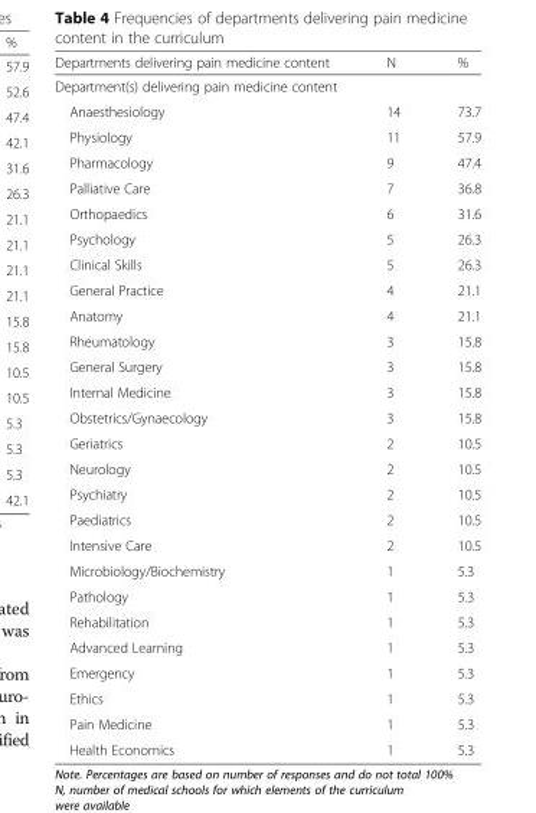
<table><thead><tr><td>Departments delivering pain medicine content</td><td>N</td><td>%</td></tr></thead><tbody><tr><td colspan="3">Department(s) delivering pain medicine content</td></tr><tr><td>Anaesthesiology</td><td>14</td><td>73.7</td></tr><tr><td>Physiology</td><td>11</td><td>57.9</td></tr><tr><td>Pharmacology</td><td>9</td><td>47.4</td></tr><tr><td>Palliative Care</td><td>7</td><td>36.8</td></tr><tr><td>Orthopaedics</td><td>6</td><td>31.6</td></tr><tr><td>Psychology</td><td>5</td><td>26.3</td></tr><tr><td>Clinical Skills</td><td>5</td><td>26.3</td></tr><tr><td>General Practice</td><td>4</td><td>21.1</td></tr><tr><td>Anatomy</td><td>4</td><td>21.1</td></tr><tr><td>Rheumatology</td><td>3</td><td>15.8</td></tr><tr><td>General Surgery</td><td>3</td><td>15.8</td></tr><tr><td>Internal Medicine</td><td>3</td><td>15.8</td></tr><tr><td>Obstetrics/Gynaecology</td><td>3</td><td>15.8</td></tr><tr><td>Geriatrics</td><td>2</td><td>10.5</td></tr><tr><td>Neurology</td><td>2</td><td>10.5</td></tr><tr><td>Psychiatry</td><td>2</td><td>10.5</td></tr><tr><td>Paediatrics</td><td>2</td><td>10.5</td></tr><tr><td>Intensive Care</td><td>2</td><td>10.5</td></tr><tr><td>Microbiology/Biochemistry</td><td>1</td><td>5.3</td></tr><tr><td>Pathology</td><td>1</td><td>5.3</td></tr><tr><td>Rehabilitation</td><td>1</td><td>5.3</td></tr><tr><td>Advanced Learning</td><td>1</td><td>5.3</td></tr><tr><td>Emergency</td><td>1</td><td>5.3</td></tr><tr><td>Ethics</td><td>1</td><td>5.3</td></tr><tr><td>Pain Medicine</td><td>1</td><td>5.3</td></tr><tr><td>Health Economics</td><td>1</td><td>5.3</td></tr></tbody></table>